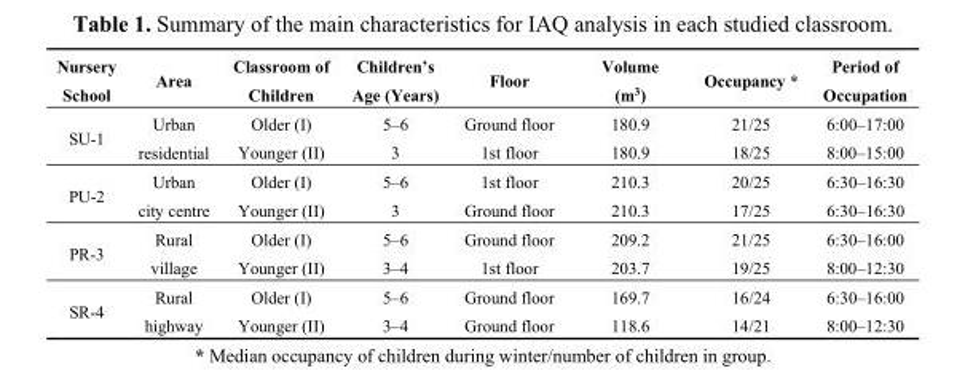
<table><thead><tr><td>Nursery School</td><td>Area</td><td>Classroom of Children</td><td>Children’s Age (Years)</td><td>Floor</td><td>Volume (m<sup>3</sup>)</td><td>Occupancy *</td><td>Period of Occupation</td></tr></thead><tbody><tr><td rowspan="2">SU-1</td><td rowspan="2">Urban residential</td><td>Older (I)</td><td>5–6</td><td>Ground floor</td><td>180.9</td><td>21/25</td><td>6:00–17:00</td></tr><tr><td>Younger (II)</td><td>3</td><td>1st floor</td><td>180.9</td><td>18/25</td><td>8:00–15:00</td></tr><tr><td rowspan="2">PU-2</td><td rowspan="2">Urban city centre</td><td>Older (I)</td><td>5–6</td><td>1st floor</td><td>210.3</td><td>20/25</td><td>6:30–16:30</td></tr><tr><td>Younger (II)</td><td>3</td><td>Ground floor</td><td>210.3</td><td>17/25</td><td>6:30–16:30</td></tr><tr><td rowspan="2">PR-3</td><td rowspan="2">Rural village</td><td>Older (I)</td><td>5–6</td><td>Ground floor</td><td>209.2</td><td>21/25</td><td>6:30–16:00</td></tr><tr><td>Younger (II)</td><td>3–4</td><td>1st floor</td><td>203.7</td><td>19/25</td><td>8:00–12:30</td></tr><tr><td rowspan="2">SR-4</td><td rowspan="2">Rural highway</td><td>Older (I)</td><td>5–6</td><td>Ground floor</td><td>169.7</td><td>16/24</td><td>6:30–16:00</td></tr><tr><td>Younger (II)</td><td>3–4</td><td>Ground floor</td><td>118.6</td><td>14/21</td><td>8:00–12:30</td></tr></tbody></table>